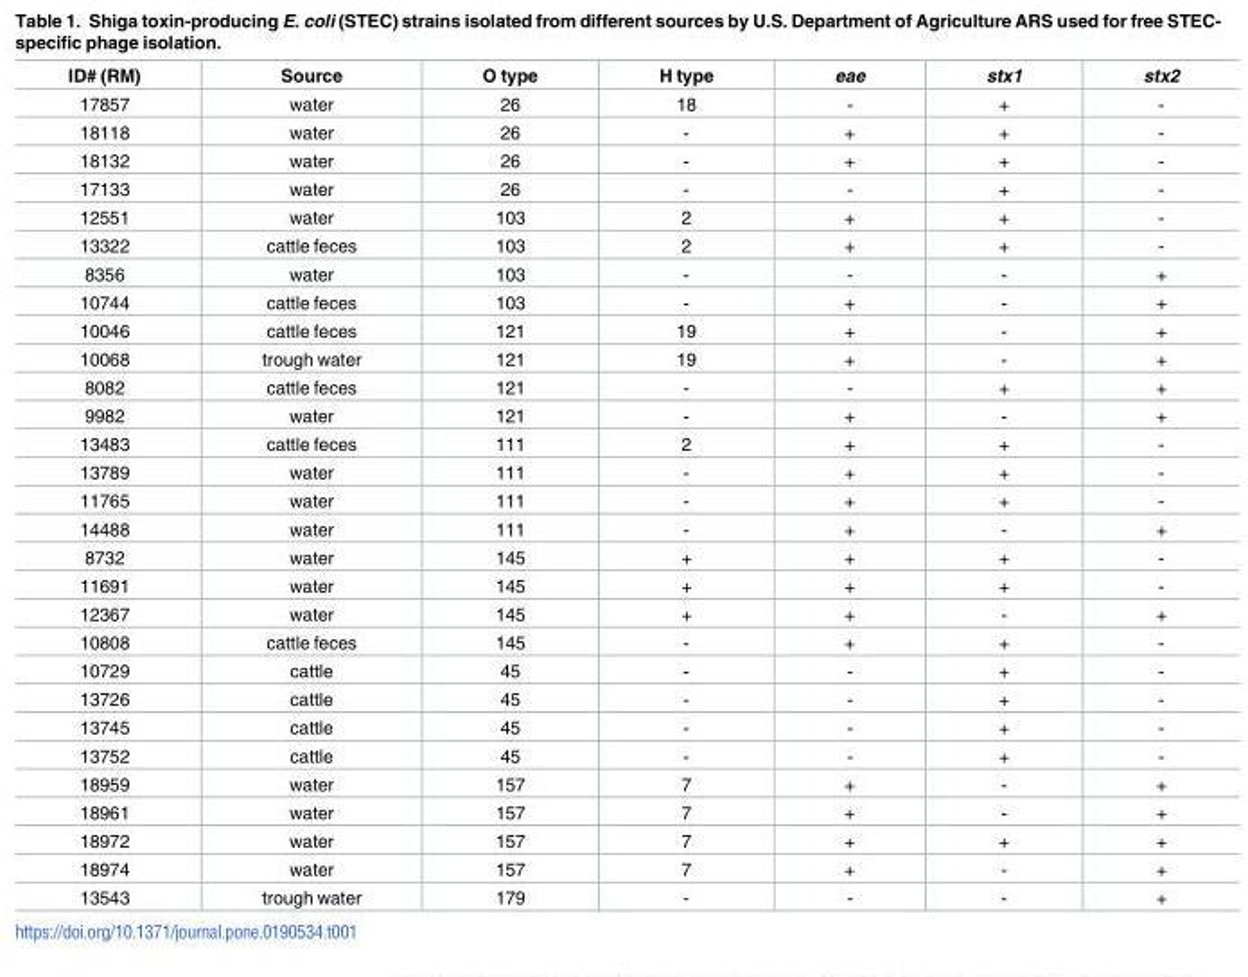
<table><thead><tr><td>ID# (RM)</td><td>Source</td><td>O type</td><td>H type</td><td>eae</td><td>stx1</td><td>stx2</td></tr></thead><tbody><tr><td>17857</td><td>water</td><td>26</td><td>18</td><td>-</td><td>+</td><td>-</td></tr><tr><td>18118</td><td>water</td><td>26</td><td>-</td><td>+</td><td>+</td><td>-</td></tr><tr><td>18132</td><td>water</td><td>26</td><td>-</td><td>+</td><td>+</td><td>-</td></tr><tr><td>17133</td><td>water</td><td>26</td><td>-</td><td>-</td><td>+</td><td>-</td></tr><tr><td>12551</td><td>water</td><td>103</td><td>2</td><td>+</td><td>+</td><td>-</td></tr><tr><td>13322</td><td>cattle feces</td><td>103</td><td>2</td><td>+</td><td>+</td><td>-</td></tr><tr><td>8356</td><td>water</td><td>103</td><td>-</td><td>-</td><td>-</td><td>+</td></tr><tr><td>10744</td><td>cattle feces</td><td>103</td><td>-</td><td>+</td><td>-</td><td>+</td></tr><tr><td>10046</td><td>cattle feces</td><td>121</td><td>19</td><td>+</td><td>-</td><td>+</td></tr><tr><td>10068</td><td>trough water</td><td>121</td><td>19</td><td>+</td><td>-</td><td>+</td></tr><tr><td>8082</td><td>cattle feces</td><td>121</td><td>-</td><td>-</td><td>+</td><td>+</td></tr><tr><td>9982</td><td>water</td><td>121</td><td>-</td><td>+</td><td>-</td><td>+</td></tr><tr><td>13483</td><td>cattle feces</td><td>111</td><td>2</td><td>+</td><td>+</td><td>-</td></tr><tr><td>13789</td><td>water</td><td>111</td><td>-</td><td>+</td><td>+</td><td>-</td></tr><tr><td>11765</td><td>water</td><td>111</td><td>-</td><td>+</td><td>+</td><td>-</td></tr><tr><td>14488</td><td>water</td><td>111</td><td>-</td><td>+</td><td>-</td><td>+</td></tr><tr><td>8732</td><td>water</td><td>145</td><td>+</td><td>+</td><td>+</td><td>-</td></tr><tr><td>11691</td><td>water</td><td>145</td><td>+</td><td>+</td><td>+</td><td>-</td></tr><tr><td>12367</td><td>water</td><td>145</td><td>+</td><td>+</td><td>-</td><td>+</td></tr><tr><td>10808</td><td>cattle feces</td><td>145</td><td>-</td><td>+</td><td>+</td><td>-</td></tr><tr><td>10729</td><td>cattle</td><td>45</td><td>-</td><td>-</td><td>+</td><td>-</td></tr><tr><td>13726</td><td>cattle</td><td>45</td><td>-</td><td>-</td><td>+</td><td>-</td></tr><tr><td>13745</td><td>cattle</td><td>45</td><td>-</td><td>-</td><td>+</td><td>-</td></tr><tr><td>13752</td><td>cattle</td><td>45</td><td>-</td><td>-</td><td>+</td><td>-</td></tr><tr><td>18959</td><td>water</td><td>157</td><td>7</td><td>+</td><td>-</td><td>+</td></tr><tr><td>18961</td><td>water</td><td>157</td><td>7</td><td>+</td><td>-</td><td>+</td></tr><tr><td>18972</td><td>water</td><td>157</td><td>7</td><td>+</td><td>+</td><td>+</td></tr><tr><td>18974</td><td>water</td><td>157</td><td>7</td><td>+</td><td>-</td><td>+</td></tr><tr><td>13543</td><td>trough water</td><td>179</td><td>-</td><td>-</td><td>-</td><td>+</td></tr></tbody></table>